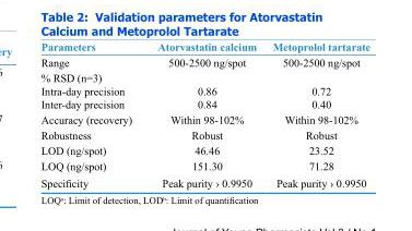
<table><thead><tr><td>Parameters</td><td>Atorvastatin calcium</td><td>Metoprolol tartarate</td></tr></thead><tbody><tr><td>Range</td><td>500-2500 ng/spot</td><td>500-2500 ng/spot</td></tr><tr><td colspan="3">% RSD (n=3)</td></tr><tr><td>Intra-day precision</td><td>0.86</td><td>0.72</td></tr><tr><td>Inter-day precision</td><td>0.84</td><td>0.40</td></tr><tr><td>Accuracy (recovery)</td><td>Within 98-102%</td><td>Within 98-102%</td></tr><tr><td>Robustness</td><td>Robust</td><td>Robust</td></tr><tr><td>LOD (ng/spot)</td><td>46.46</td><td>23.52</td></tr><tr><td>LOQ (ng/spot)</td><td>151.30</td><td>71.28</td></tr><tr><td>Specificity</td><td>Peak purity › 0.9950</td><td>Peak purity › 0.9950</td></tr></tbody></table>